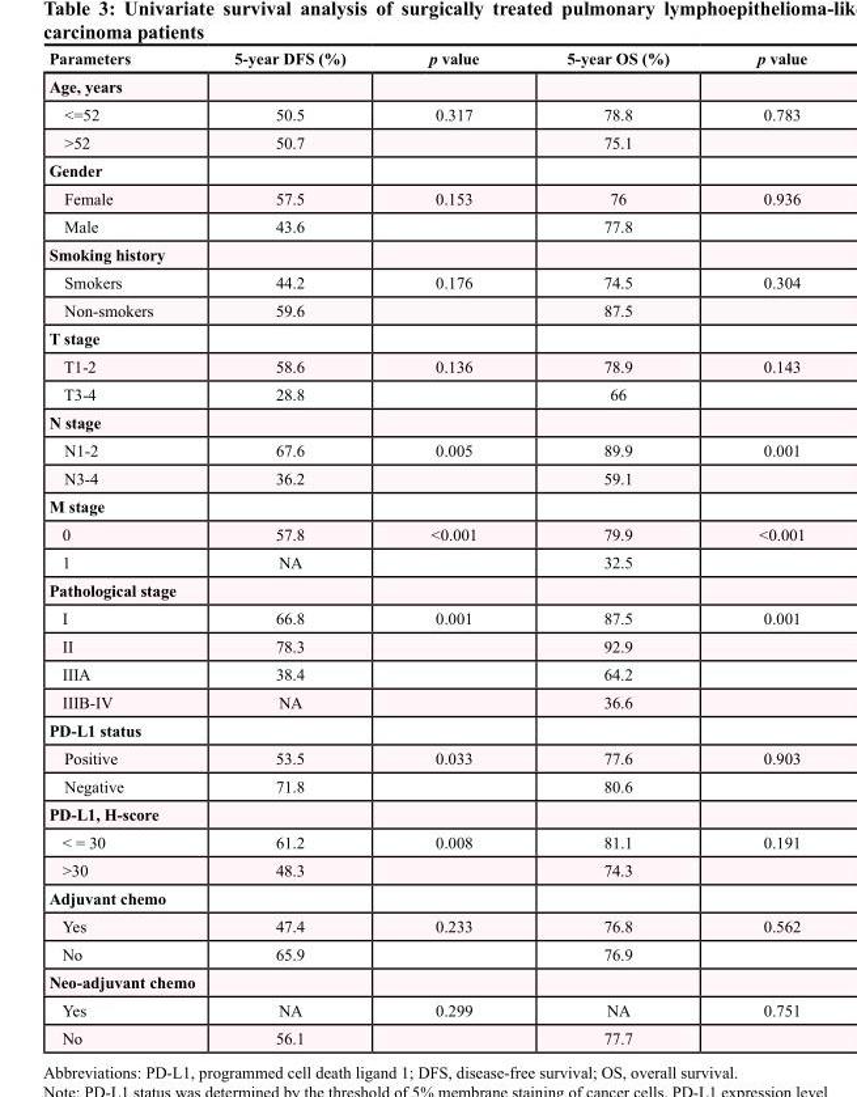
<table><thead><tr><td>Parameters</td><td>5-year DFS (%)</td><td>p value</td><td>5-year OS (%)</td><td>p value</td></tr></thead><tbody><tr><td colspan="5">Age, years</td></tr><tr><td>&lt;=52</td><td>50.5</td><td>0.317</td><td>78.8</td><td>0.783</td></tr><tr><td>&gt;52</td><td>50.7</td><td></td><td>75.1</td><td></td></tr><tr><td colspan="5">Gender</td></tr><tr><td>Female</td><td>57.5</td><td>0.153</td><td>76</td><td>0.936</td></tr><tr><td>Male</td><td>43.6</td><td></td><td>77.8</td><td></td></tr><tr><td colspan="5">Smoking history</td></tr><tr><td>Smokers</td><td>44.2</td><td>0.176</td><td>74.5</td><td>0.304</td></tr><tr><td>Non-smokers</td><td>59.6</td><td></td><td>87.5</td><td></td></tr><tr><td colspan="5">T stage</td></tr><tr><td>T1-2</td><td>58.6</td><td>0.136</td><td>78.9</td><td>0.143</td></tr><tr><td>T3-4</td><td>28.8</td><td></td><td>66</td><td></td></tr><tr><td colspan="5">N stage</td></tr><tr><td>N1-2</td><td>67.6</td><td>0.005</td><td>89.9</td><td>0.001</td></tr><tr><td>N3-4</td><td>36.2</td><td></td><td>59.1</td><td></td></tr><tr><td colspan="5">M stage</td></tr><tr><td>0</td><td>57.8</td><td>&lt;0.001</td><td>79.9</td><td>&lt;0.001</td></tr><tr><td>1</td><td>NA</td><td></td><td>32.5</td><td></td></tr><tr><td colspan="5">Pathological stage</td></tr><tr><td>I</td><td>66.8</td><td>0.001</td><td>87.5</td><td>0.001</td></tr><tr><td>II</td><td>78.3</td><td></td><td>92.9</td><td></td></tr><tr><td>IIIA</td><td>38.4</td><td></td><td>64.2</td><td></td></tr><tr><td>IIIB-IV</td><td>NA</td><td></td><td>36.6</td><td></td></tr><tr><td colspan="5">PD-L1 status</td></tr><tr><td>Positive</td><td>53.5</td><td>0.033</td><td>77.6</td><td>0.903</td></tr><tr><td>Negative</td><td>71.8</td><td></td><td>80.6</td><td></td></tr><tr><td colspan="5">PD-L1, H-score</td></tr><tr><td>&lt; = 30</td><td>61.2</td><td>0.008</td><td>81.1</td><td>0.191</td></tr><tr><td>&gt;30</td><td>48.3</td><td></td><td>74.3</td><td></td></tr><tr><td colspan="5">Adjuvant chemo</td></tr><tr><td>Yes</td><td>47.4</td><td>0.233</td><td>76.8</td><td>0.562</td></tr><tr><td>No</td><td>65.9</td><td></td><td>76.9</td><td></td></tr><tr><td colspan="5">Neo-adjuvant chemo</td></tr><tr><td>Yes</td><td>NA</td><td>0.299</td><td>NA</td><td>0.751</td></tr><tr><td>No</td><td>56.1</td><td></td><td>77.7</td><td></td></tr></tbody></table>